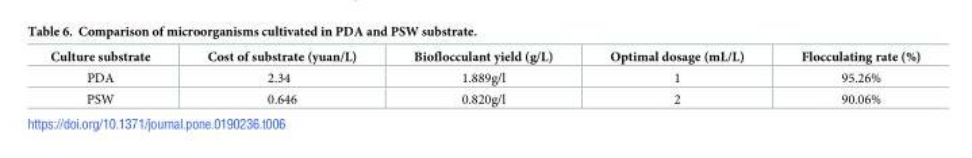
<table><thead><tr><td>Culture substrate</td><td>Cost of substrate (yuan/L)</td><td>Bioflocculant yield (g/L)</td><td>Optimal dosage (mL/L)</td><td>Flocculating rate (%)</td></tr></thead><tbody><tr><td>PDA</td><td>2.34</td><td>1.889g/l</td><td>1</td><td>95.26%</td></tr><tr><td>PSW</td><td>0.646</td><td>0.820g/l</td><td>2</td><td>90.06%</td></tr></tbody></table>